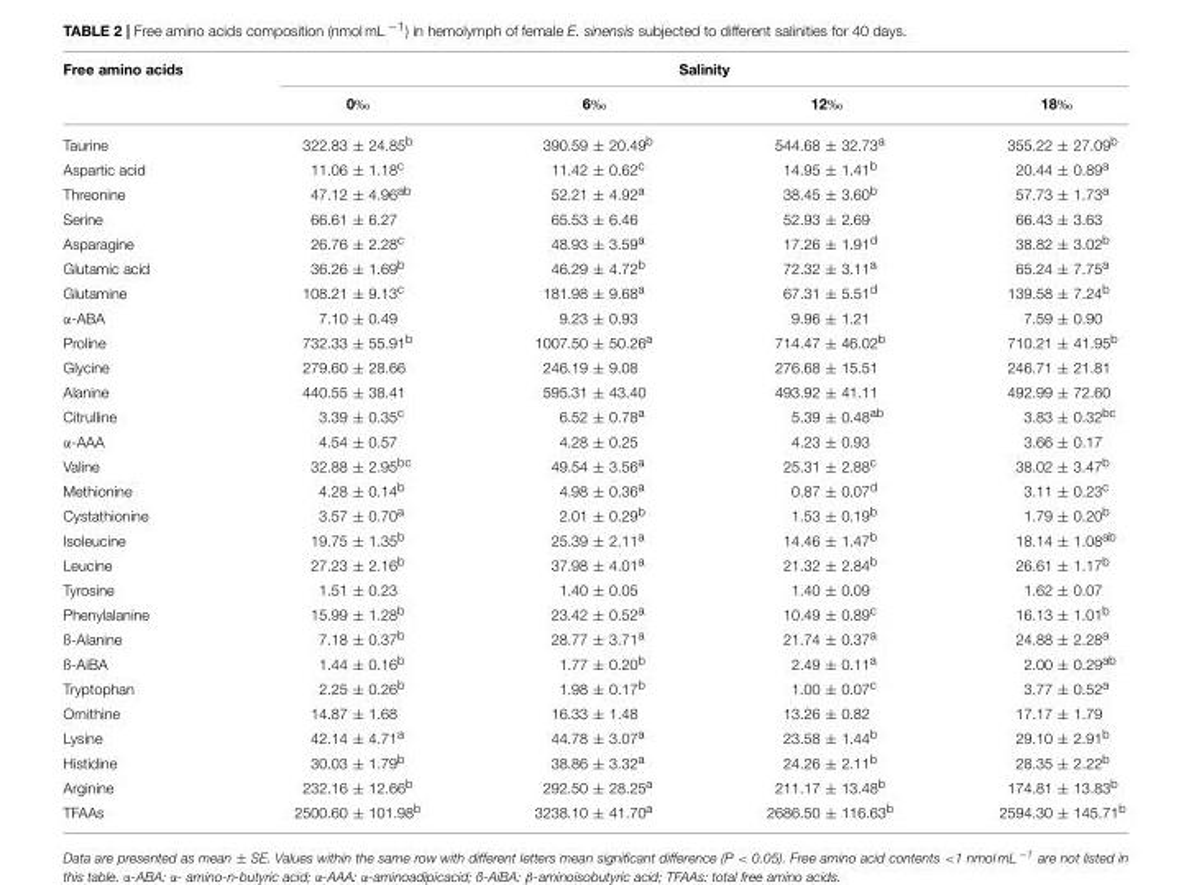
<table><thead><tr><td rowspan="2">Free amino acids</td><td colspan="4">Salinity</td></tr><tr><td>0‰</td><td>6‰</td><td>12‰</td><td>18‰</td></tr></thead><tbody><tr><td>Taurine</td><td>322.83 ± 24.85<sup>b</sup></td><td>390.59 ± 20.49<sup>b</sup></td><td>544.68 ± 32.73<sup>a</sup></td><td>355.22 ± 27.09<sup>b</sup></td></tr><tr><td>Aspartic acid</td><td>11.06 ± 1.18<sup>c</sup></td><td>11.42 ± 0.62<sup>c</sup></td><td>14.95 ± 1.41<sup>b</sup></td><td>20.44 ± 0.89<sup>a</sup></td></tr><tr><td>Threonine</td><td>47.12 ± 4.96<sup>ab</sup></td><td>52.21 ± 4.92<sup>a</sup></td><td>38.45 ± 3.60<sup>b</sup></td><td>57.73 ± 1.73<sup>a</sup></td></tr><tr><td>Serine</td><td>66.61 ± 6.27</td><td>65.53 ± 6.46</td><td>52.93 ± 2.69</td><td>66.43 ± 3.63</td></tr><tr><td>Asparagine</td><td>26.76 ± 2.28<sup>c</sup></td><td>48.93 ± 3.59<sup>a</sup></td><td>17.26 ± 1.91<sup>d</sup></td><td>38.82 ± 3.02<sup>b</sup></td></tr><tr><td>Glutamic acid</td><td>36.26 ± 1.69<sup>b</sup></td><td>46.29 ± 4.72<sup>b</sup></td><td>72.32 ± 3.11<sup>a</sup></td><td>65.24 ± 7.75<sup>a</sup></td></tr><tr><td>Glutamine</td><td>108.21 ± 9.13<sup>c</sup></td><td>181.98 ± 9.68<sup>a</sup></td><td>67.31 ± 5.51<sup>d</sup></td><td>139.58 ± 7.24<sup>b</sup></td></tr><tr><td>α-ABA</td><td>7.10 ± 0.49</td><td>9.23 ± 0.93</td><td>9.96 ± 1.21</td><td>7.59 ± 0.90</td></tr><tr><td>Proline</td><td>732.33 ± 55.91<sup>b</sup></td><td>1007.50 ± 50.26<sup>a</sup></td><td>714.47 ± 46.02<sup>b</sup></td><td>710.21 ± 41.95<sup>b</sup></td></tr><tr><td>Glycine</td><td>279.60 ± 28.66</td><td>246.19 ± 9.08</td><td>276.68 ± 15.51</td><td>246.71 ± 21.81</td></tr><tr><td>Alanine</td><td>440.55 ± 38.41</td><td>595.31 ± 43.40</td><td>493.92 ± 41.11</td><td>492.99 ± 72.60</td></tr><tr><td>Citrulline</td><td>3.39 ± 0.35<sup>c</sup></td><td>6.52 ± 0.78<sup>a</sup></td><td>5.39 ± 0.48<sup>ab</sup></td><td>3.83 ± 0.32<sup>bc</sup></td></tr><tr><td>α-AAA</td><td>4.54 ± 0.57</td><td>4.28 ± 0.25</td><td>4.23 ± 0.93</td><td>3.66 ± 0.17</td></tr><tr><td>Valine</td><td>32.88 ± 2.95<sup>bc</sup></td><td>49.54 ± 3.56<sup>a</sup></td><td>25.31 ± 2.88<sup>c</sup></td><td>38.02 ± 3.47<sup>b</sup></td></tr><tr><td>Methionine</td><td>4.28 ± 0.14<sup>b</sup></td><td>4.98 ± 0.36<sup>a</sup></td><td>0.87 ± 0.07<sup>d</sup></td><td>3.11 ± 0.23<sup>c</sup></td></tr><tr><td>Cystathionine</td><td>3.57 ± 0.70<sup>a</sup></td><td>2.01 ± 0.29<sup>b</sup></td><td>1.53 ± 0.19<sup>b</sup></td><td>1.79 ± 0.20<sup>b</sup></td></tr><tr><td>Isoleucine</td><td>19.75 ± 1.35<sup>b</sup></td><td>25.39 ± 2.11<sup>a</sup></td><td>14.46 ± 1.47<sup>b</sup></td><td>18.14 ± 1.08<sup>ab</sup></td></tr><tr><td>Leucine</td><td>27.23 ± 2.16<sup>b</sup></td><td>37.98 ± 4.01<sup>a</sup></td><td>21.32 ± 2.84<sup>b</sup></td><td>26.61 ± 1.17<sup>b</sup></td></tr><tr><td>Tyrosine</td><td>1.51 ± 0.23</td><td>1.40 ± 0.05</td><td>1.40 ± 0.09</td><td>1.62 ± 0.07</td></tr><tr><td>Phenylalanine</td><td>15.99 ± 1.28<sup>b</sup></td><td>23.42 ± 0.52<sup>a</sup></td><td>10.49 ± 0.89<sup>c</sup></td><td>16.13 ± 1.01<sup>b</sup></td></tr><tr><td>ß-Alanine</td><td>7.18 ± 0.37<sup>b</sup></td><td>28.77 ± 3.71<sup>a</sup></td><td>21.74 ± 0.37<sup>a</sup></td><td>24.88 ± 2.28<sup>a</sup></td></tr><tr><td>ß-AiBA</td><td>1.44 ± 0.16<sup>b</sup></td><td>1.77 ± 0.20<sup>b</sup></td><td>2.49 ± 0.11<sup>a</sup></td><td>2.00 ± 0.29<sup>ab</sup></td></tr><tr><td>Tryptophan</td><td>2.25 ± 0.26<sup>b</sup></td><td>1.98 ± 0.17<sup>b</sup></td><td>1.00 ± 0.07<sup>c</sup></td><td>3.77 ± 0.52<sup>a</sup></td></tr><tr><td>Ornithine</td><td>14.87 ± 1.68</td><td>16.33 ± 1.48</td><td>13.26 ± 0.82</td><td>17.17 ± 1.79</td></tr><tr><td>Lysine</td><td>42.14 ± 4.71<sup>a</sup></td><td>44.78 ± 3.07<sup>a</sup></td><td>23.58 ± 1.44<sup>b</sup></td><td>29.10 ± 2.91<sup>b</sup></td></tr><tr><td>Histidine</td><td>30.03 ± 1.79<sup>b</sup></td><td>38.86 ± 3.32<sup>a</sup></td><td>24.26 ± 2.11<sup>b</sup></td><td>28.35 ± 2.22<sup>b</sup></td></tr><tr><td>Arginine</td><td>232.16 ± 12.66<sup>b</sup></td><td>292.50 ± 28.25<sup>a</sup></td><td>211.17 ± 13.48<sup>b</sup></td><td>174.81 ± 13.83<sup>b</sup></td></tr><tr><td>TFAAs</td><td>2500.60 ± 101.98<sup>b</sup></td><td>3238.10 ± 41.70<sup>a</sup></td><td>2686.50 ± 116.63<sup>b</sup></td><td>2594.30 ± 145.71<sup>b</sup></td></tr></tbody></table>